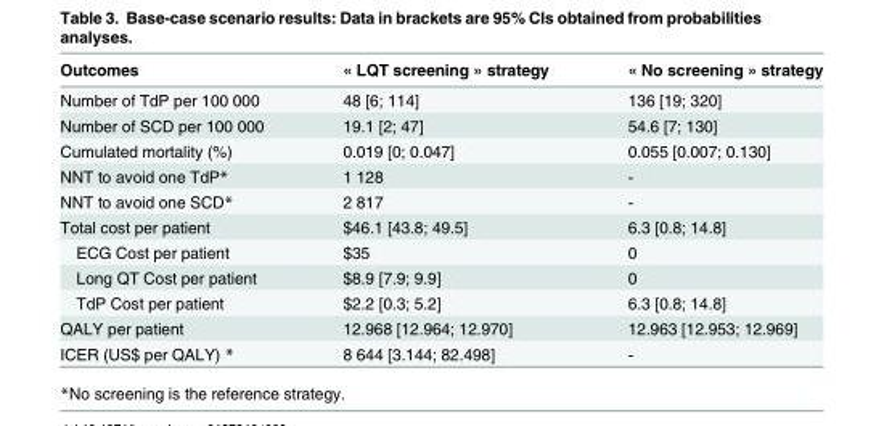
<table><thead><tr><td>Outcomes</td><td>« LQT screening » strategy</td><td>« No screening » strategy</td></tr></thead><tbody><tr><td>Number of TdP per 100 000</td><td>48 [6; 114]</td><td>136 [19; 320]</td></tr><tr><td>Number of SCD per 100 000</td><td>19.1 [2; 47]</td><td>54.6 [7; 130]</td></tr><tr><td>Cumulated mortality (%)</td><td>0.019 [0; 0.047]</td><td>0.055 [0.007; 0.130]</td></tr><tr><td>NNT to avoid one TdP*</td><td>1 128</td><td>-</td></tr><tr><td>NNT to avoid one SCD*</td><td>2 817</td><td>-</td></tr><tr><td>Total cost per patient</td><td>$46.1 [43.8; 49.5]</td><td>6.3 [0.8; 14.8]</td></tr><tr><td>ECG Cost per patient</td><td>$35</td><td>0</td></tr><tr><td>Long QT Cost per patient</td><td>$8.9 [7.9; 9.9]</td><td>0</td></tr><tr><td>TdP Cost per patient</td><td>$2.2 [0.3; 5.2]</td><td>6.3 [0.8; 14.8]</td></tr><tr><td>QALY per patient</td><td>12.968 [12.964; 12.970]</td><td>12.963 [12.953; 12.969]</td></tr><tr><td>ICER (US$ per QALY) *</td><td>8 644 [3.144; 82.498]</td><td>-</td></tr></tbody></table>